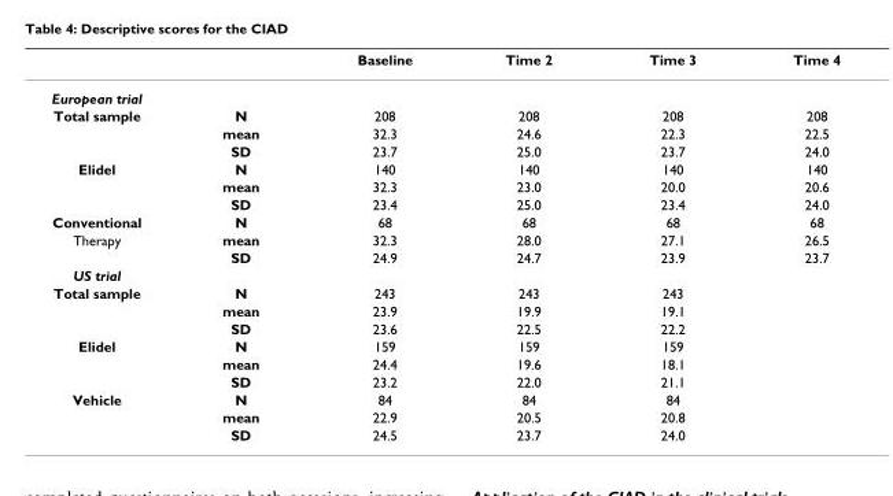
<table><thead><tr><td></td><td></td><td>Baseline</td><td>Time 2</td><td>Time 3</td><td>Time 4</td></tr></thead><tbody><tr><td colspan="6">European trial</td></tr><tr><td rowspan="3">Total sample</td><td>N</td><td>208</td><td>208</td><td>208</td><td>208</td></tr><tr><td>mean</td><td>32.3</td><td>24.6</td><td>22.3</td><td>22.5</td></tr><tr><td>SD</td><td>23.7</td><td>25.0</td><td>23.7</td><td>24.0</td></tr><tr><td rowspan="3">Elidel</td><td>N</td><td>140</td><td>140</td><td>140</td><td>140</td></tr><tr><td>mean</td><td>32.3</td><td>23.0</td><td>20.0</td><td>20.6</td></tr><tr><td>SD</td><td>23.4</td><td>25.0</td><td>23.4</td><td>24.0</td></tr><tr><td>Conventional</td><td>N</td><td>68</td><td>68</td><td>68</td><td>68</td></tr><tr><td rowspan="2">Therapy</td><td>mean</td><td>32.3</td><td>28.0</td><td>27.1</td><td>26.5</td></tr><tr><td>SD</td><td>24.9</td><td>24.7</td><td>23.9</td><td>23.7</td></tr><tr><td colspan="6">US trial</td></tr><tr><td rowspan="3">Total sample</td><td>N</td><td>243</td><td>243</td><td>243</td><td></td></tr><tr><td>mean</td><td>23.9</td><td>19.9</td><td>19.1</td><td></td></tr><tr><td>SD</td><td>23.6</td><td>22.5</td><td>22.2</td><td></td></tr><tr><td rowspan="3">Elidel</td><td>N</td><td>159</td><td>159</td><td>159</td><td></td></tr><tr><td>mean</td><td>24.4</td><td>19.6</td><td>18.1</td><td></td></tr><tr><td>SD</td><td>23.2</td><td>22.0</td><td>21.1</td><td></td></tr><tr><td rowspan="3">Vehicle</td><td>N</td><td>84</td><td>84</td><td>84</td><td></td></tr><tr><td>mean</td><td>22.9</td><td>20.5</td><td>20.8</td><td></td></tr><tr><td>SD</td><td>24.5</td><td>23.7</td><td>24.0</td><td></td></tr></tbody></table>